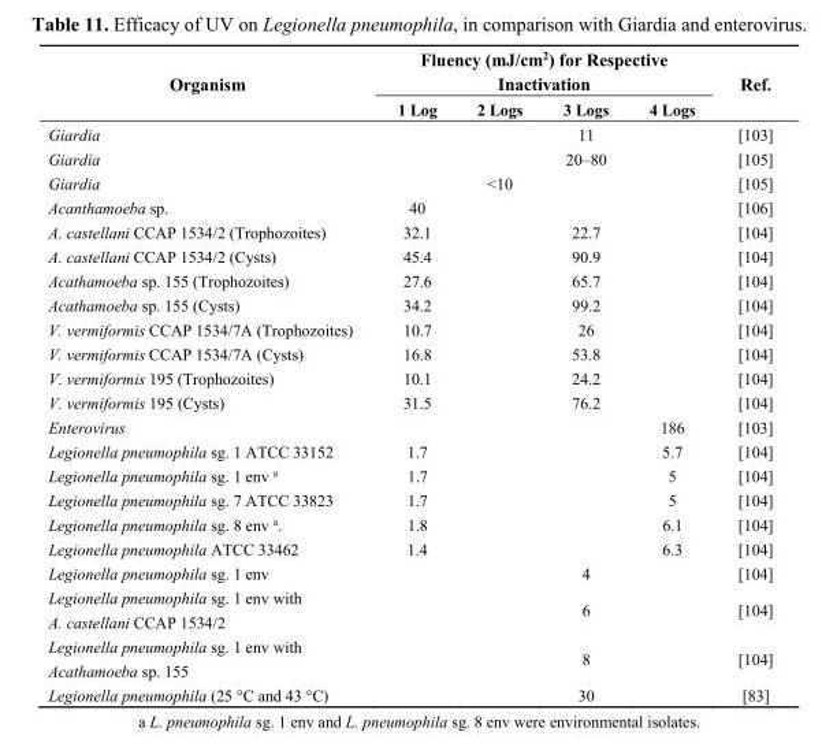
<table><thead><tr><td rowspan="2">Organism</td><td colspan="4">Fluency (mJ/cm<sup>2</sup>) for Respective Inactivation</td><td rowspan="2">Ref.</td></tr><tr><td>1 Log</td><td>2 Logs</td><td>3 Logs</td><td>4 Logs</td></tr></thead><tbody><tr><td>Giardia</td><td></td><td></td><td>11</td><td></td><td>[103]</td></tr><tr><td>Giardia</td><td></td><td></td><td>20–80</td><td></td><td>[105]</td></tr><tr><td>Giardia</td><td></td><td>&lt;10</td><td></td><td></td><td>[105]</td></tr><tr><td>Acanthamoeba sp.</td><td>40</td><td></td><td></td><td></td><td>[106]</td></tr><tr><td>A. castellani CCAP 1534/2 (Trophozoites)</td><td>32.1</td><td></td><td>22.7</td><td></td><td>[104]</td></tr><tr><td>A. castellani CCAP 1534/2 (Cysts)</td><td>45.4</td><td></td><td>90.9</td><td></td><td>[104]</td></tr><tr><td>Acathamoeba sp. 155 (Trophozoites)</td><td>27.6</td><td></td><td>65.7</td><td></td><td>[104]</td></tr><tr><td>Acathamoeba sp. 155 (Cysts)</td><td>34.2</td><td></td><td>99.2</td><td></td><td>[104]</td></tr><tr><td>V. vermiformis CCAP 1534/7A (Trophozoites)</td><td>10.7</td><td></td><td>26</td><td></td><td>[104]</td></tr><tr><td>V. vermiformis CCAP 1534/7A (Cysts)</td><td>16.8</td><td></td><td>53.8</td><td></td><td>[104]</td></tr><tr><td>V. vermiformis 195 (Trophozoites)</td><td>10.1</td><td></td><td>24.2</td><td></td><td>[104]</td></tr><tr><td>V. vermiformis 195 (Cysts)</td><td>31.5</td><td></td><td>76.2</td><td></td><td>[104]</td></tr><tr><td>Enterovirus</td><td></td><td></td><td></td><td>186</td><td>[103]</td></tr><tr><td>Legionella pneumophila sg. 1 ATCC 33152</td><td>1.7</td><td></td><td></td><td>5.7</td><td>[104]</td></tr><tr><td>Legionella pneumophila sg. 1 env <sup>a</sup></td><td>1.7</td><td></td><td></td><td>5</td><td>[104]</td></tr><tr><td>Legionella pneumophila sg. 7 ATCC 33823</td><td>1.7</td><td></td><td></td><td>5</td><td>[104]</td></tr><tr><td>Legionella pneumophila sg. 8 env <sup>a</sup>.</td><td>1.8</td><td></td><td></td><td>6.1</td><td>[104]</td></tr><tr><td>Legionella pneumophila ATCC 33462</td><td>1.4</td><td></td><td></td><td>6.3</td><td>[104]</td></tr><tr><td>Legionella pneumophila sg. 1 env</td><td></td><td></td><td>4</td><td></td><td>[104]</td></tr><tr><td>Legionella pneumophila sg. 1 env with A. castellani CCAP 1534/2</td><td></td><td></td><td>6</td><td></td><td>[104]</td></tr><tr><td>Legionella pneumophila sg. 1 env with Acathamoeba sp. 155</td><td></td><td></td><td>8</td><td></td><td>[104]</td></tr><tr><td>Legionella pneumophila (25 °C and 43 °C)</td><td></td><td></td><td>30</td><td></td><td>[83]</td></tr></tbody></table>